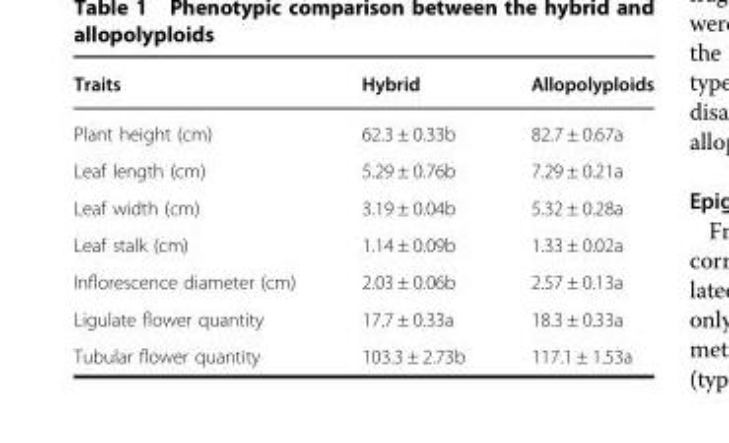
<table><thead><tr><td>Traits</td><td>Hybrid</td><td>Allopolyploids</td></tr></thead><tbody><tr><td>Plant height (cm)</td><td>62.3 ± 0.33b</td><td>82.7 ± 0.67a</td></tr><tr><td>Leaf length (cm)</td><td>5.29 ± 0.76b</td><td>7.29 ± 0.21a</td></tr><tr><td>Leaf width (cm)</td><td>3.19 ± 0.04b</td><td>5.32 ± 0.28a</td></tr><tr><td>Leaf stalk (cm)</td><td>1.14 ± 0.09b</td><td>1.33 ± 0.02a</td></tr><tr><td>Inflorescence diameter (cm)</td><td>2.03 ± 0.06b</td><td>2.57 ± 0.13a</td></tr><tr><td>Ligulate flower quantity</td><td>17.7 ± 0.33a</td><td>18.3 ± 0.33a</td></tr><tr><td>Tubular flower quantity</td><td>103.3 ± 2.73b</td><td>117.1 ± 1.53a</td></tr></tbody></table>